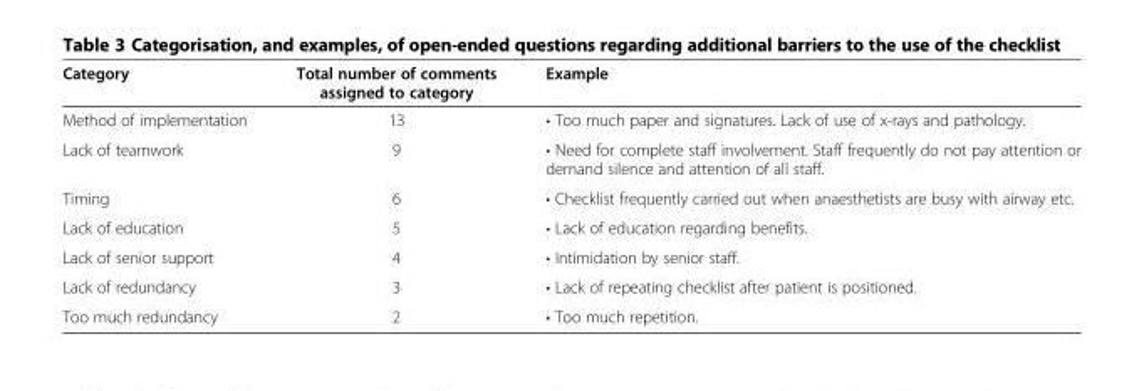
<table><thead><tr><td>Category</td><td>Total number of comments assigned to category</td><td>Example</td></tr></thead><tbody><tr><td>Method of implementation</td><td>13</td><td>• Too much paper and signatures. Lack of use of x-rays and pathology.</td></tr><tr><td>Lack of teamwork</td><td>9</td><td>• Need for complete staff involvement. Staff frequently do not pay attention or demand silence and attention of all staff.</td></tr><tr><td>Timing</td><td>6</td><td>• Checklist frequently carried out when anaesthetists are busy with airway etc.</td></tr><tr><td>Lack of education</td><td>5</td><td>• Lack of education regarding benefits.</td></tr><tr><td>Lack of senior support</td><td>4</td><td>• Intimidation by senior staff.</td></tr><tr><td>Lack of redundancy</td><td>3</td><td>• Lack of repeating checklist after patient is positioned.</td></tr><tr><td>Too much redundancy</td><td>2</td><td>• Too much repetition.</td></tr></tbody></table>